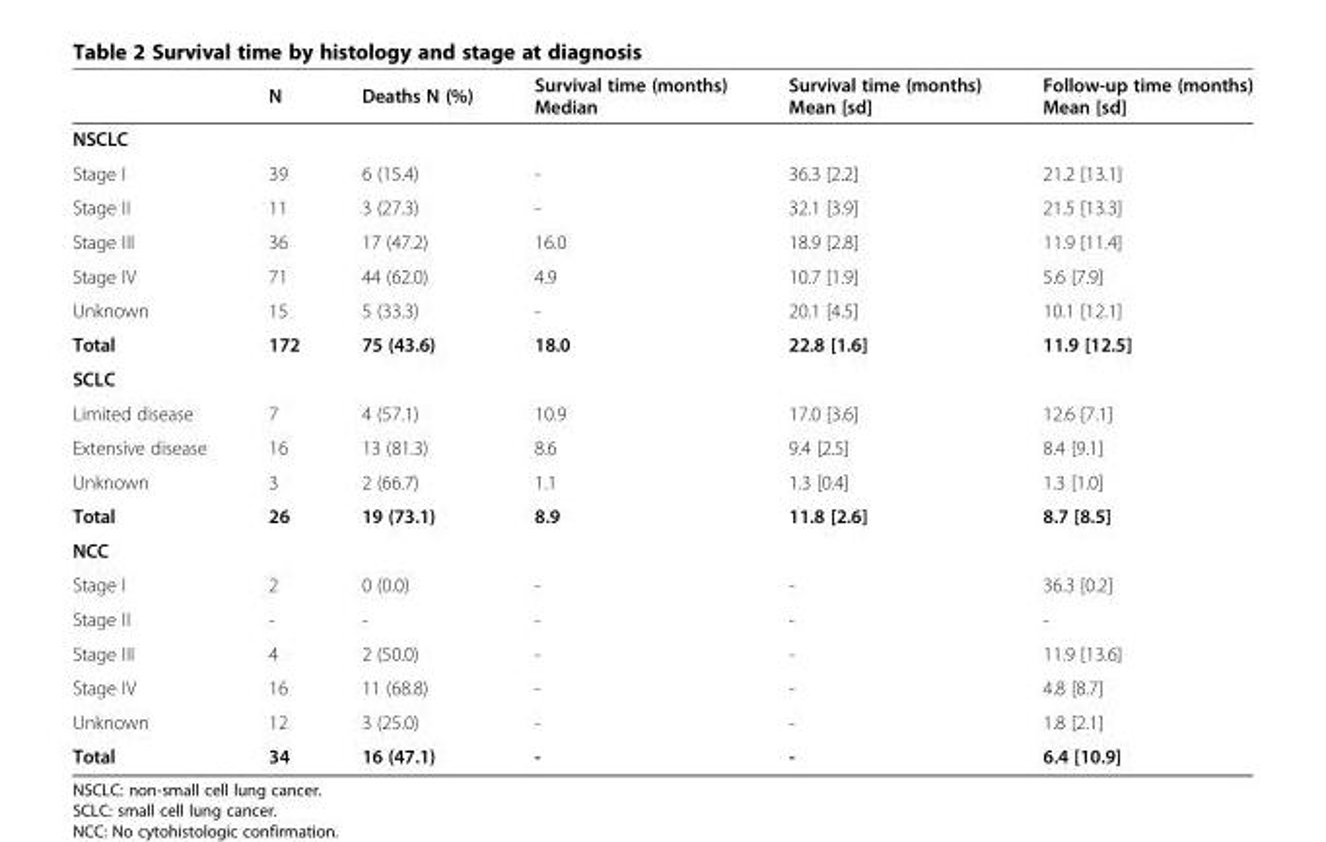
<table><thead><tr><td></td><td>N</td><td>Deaths N (%)</td><td>Survival time (months) Median</td><td>Survival time (months) Mean [sd]</td><td>Follow-up time (months) Mean [sd]</td></tr></thead><tbody><tr><td colspan="6">NSCLC</td></tr><tr><td>Stage I</td><td>39</td><td>6 (15.4)</td><td>-</td><td>36.3 [2.2]</td><td>21.2 [13.1]</td></tr><tr><td>Stage II</td><td>11</td><td>3 (27.3)</td><td>-</td><td>32.1 [3.9]</td><td>21.5 [13.3]</td></tr><tr><td>Stage III</td><td>36</td><td>17 (47.2)</td><td>16.0</td><td>18.9 [2.8]</td><td>11.9 [11.4]</td></tr><tr><td>Stage IV</td><td>71</td><td>44 (62.0)</td><td>4.9</td><td>10.7 [1.9]</td><td>5.6 [7.9]</td></tr><tr><td>Unknown</td><td>15</td><td>5 (33.3)</td><td>-</td><td>20.1 [4.5]</td><td>10.1 [12.1]</td></tr><tr><td>Total</td><td>172</td><td>75 (43.6)</td><td>18.0</td><td>22.8 [1.6]</td><td>11.9 [12.5]</td></tr><tr><td colspan="6">SCLC</td></tr><tr><td>Limited disease</td><td>7</td><td>4 (57.1)</td><td>10.9</td><td>17.0 [3.6]</td><td>12.6 [7.1]</td></tr><tr><td>Extensive disease</td><td>16</td><td>13 (81.3)</td><td>8.6</td><td>9.4 [2.5]</td><td>8.4 [9.1]</td></tr><tr><td>Unknown</td><td>3</td><td>2 (66.7)</td><td>1.1</td><td>1.3 [0.4]</td><td>1.3 [1.0]</td></tr><tr><td>Total</td><td>26</td><td>19 (73.1)</td><td>8.9</td><td>11.8 [2.6]</td><td>8.7 [8.5]</td></tr><tr><td colspan="6">NCC</td></tr><tr><td>Stage I</td><td>2</td><td>0 (0.0)</td><td>-</td><td>-</td><td>36.3 [0.2]</td></tr><tr><td>Stage II</td><td>-</td><td>-</td><td>-</td><td>-</td><td>-</td></tr><tr><td>Stage III</td><td>4</td><td>2 (50.0)</td><td>-</td><td>-</td><td>11.9 [13.6]</td></tr><tr><td>Stage IV</td><td>16</td><td>11 (68.8)</td><td>-</td><td>-</td><td>4.8 [8.7]</td></tr><tr><td>Unknown</td><td>12</td><td>3 (25.0)</td><td>-</td><td>-</td><td>1.8 [2.1]</td></tr><tr><td>Total</td><td>34</td><td>16 (47.1)</td><td>-</td><td>-</td><td>6.4 [10.9]</td></tr></tbody></table>